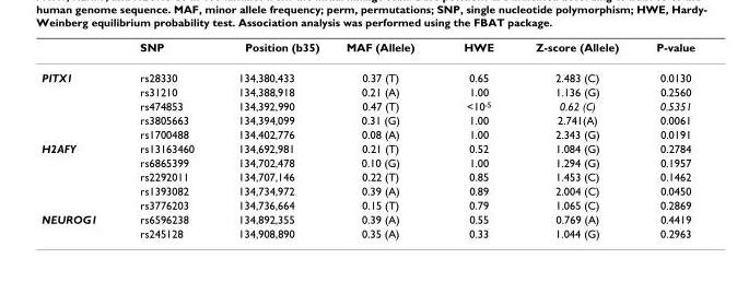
<table><thead><tr><td></td><td>SNP</td><td>Position (b35)</td><td>MAF (Allele)</td><td>HWE</td><td>Z-score (Allele)</td><td>P-value</td></tr></thead><tbody><tr><td rowspan="5">PITX1</td><td>rs28330</td><td>134,380,433</td><td>0.37 (T)</td><td>0.65</td><td>2.483 (C)</td><td>0.0130</td></tr><tr><td>rs31210</td><td>134,388,918</td><td>0.21 (A)</td><td>1.00</td><td>1.136 (G)</td><td>0.2560</td></tr><tr><td>rs474853</td><td>134,392,990</td><td>0.47 (T)</td><td>&lt;10<sup>-5</sup></td><td>0.62 (C)</td><td>0.5351</td></tr><tr><td>rs3805663</td><td>134,394,099</td><td>0.31 (G)</td><td>1.00</td><td>2.741(A)</td><td>0.0061</td></tr><tr><td>rs1700488</td><td>134,402,776</td><td>0.08 (A)</td><td>1.00</td><td>2.343 (G)</td><td>0.0191</td></tr><tr><td rowspan="5">H2AFY</td><td>rs13163460</td><td>134,692,981</td><td>0.21 (T)</td><td>0.52</td><td>1.084 (G)</td><td>0.2784</td></tr><tr><td>rs6865399</td><td>134,702,478</td><td>0.10 (G)</td><td>1.00</td><td>1.294 (G)</td><td>0.1957</td></tr><tr><td>rs2292011</td><td>134,707,146</td><td>0.22 (T)</td><td>0.85</td><td>1.453 (C)</td><td>0.1462</td></tr><tr><td>rs1393082</td><td>134,734,972</td><td>0.39 (A)</td><td>0.89</td><td>2.004 (C)</td><td>0.0450</td></tr><tr><td>rs3776203</td><td>134,736,664</td><td>0.15 (T)</td><td>0.79</td><td>1.065 (C)</td><td>0.2869</td></tr><tr><td rowspan="2">NEUROG1</td><td>rs6596238</td><td>134,892,355</td><td>0.39 (A)</td><td>0.55</td><td>0.769 (A)</td><td>0.4419</td></tr><tr><td>rs245128</td><td>134,908,890</td><td>0.35 (A)</td><td>0.33</td><td>1.044 (G)</td><td>0.2963</td></tr></tbody></table>